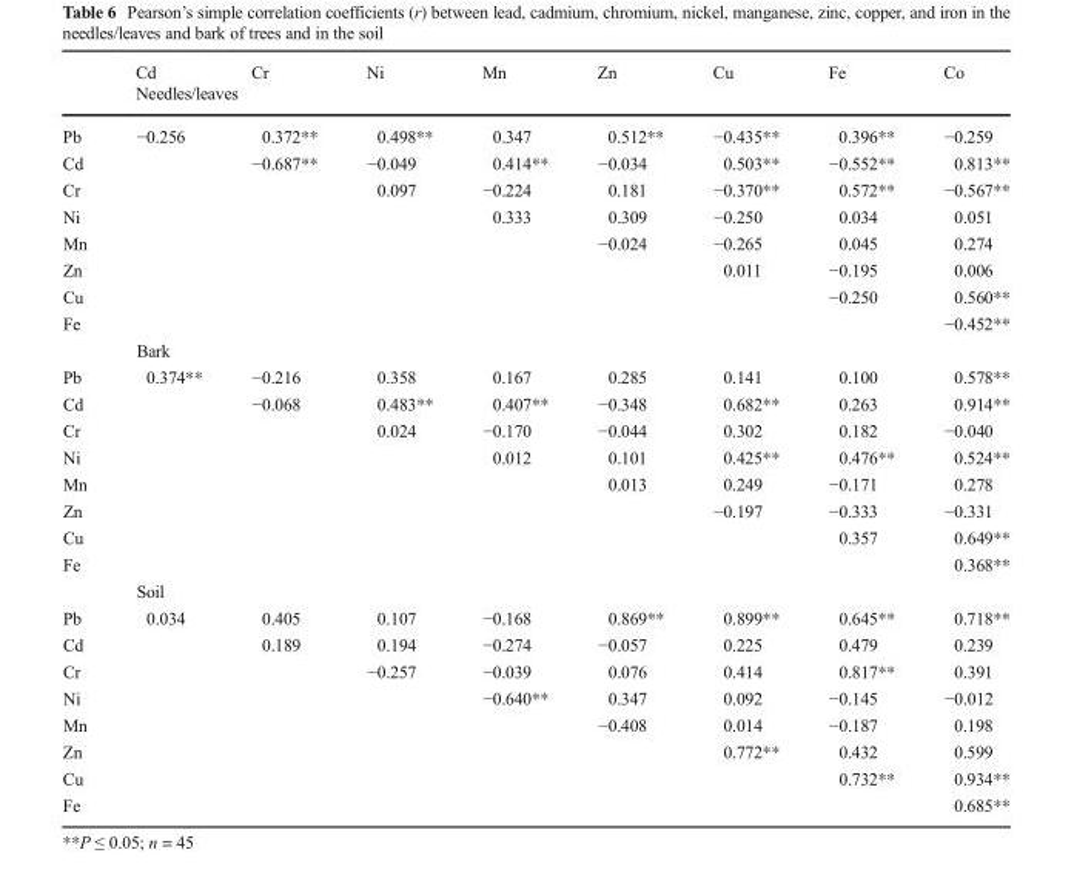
<table><thead><tr><td rowspan="2"></td><td>Cd</td><td>Cr</td><td>Ni</td><td>Mn</td><td>Zn</td><td>Cu</td><td>Fe</td><td>Co</td></tr><tr><td colspan="8">Needles/leaves</td></tr></thead><tbody><tr><td>Pb</td><td>−0.256</td><td>0.372**</td><td>0.498**</td><td>0.347</td><td>0.512**</td><td>−0.435**</td><td>0.396**</td><td>−0.259</td></tr><tr><td>Cd</td><td></td><td>−0.687**</td><td>−0.049</td><td>0.414**</td><td>−0.034</td><td>0.503**</td><td>−0.552**</td><td>0.813**</td></tr><tr><td>Cr</td><td></td><td></td><td>0.097</td><td>−0.224</td><td>0.181</td><td>−0.370**</td><td>0.572**</td><td>−0.567**</td></tr><tr><td>Ni</td><td></td><td></td><td></td><td>0.333</td><td>0.309</td><td>−0.250</td><td>0.034</td><td>0.051</td></tr><tr><td>Mn</td><td></td><td></td><td></td><td></td><td>−0.024</td><td>−0.265</td><td>0.045</td><td>0.274</td></tr><tr><td>Zn</td><td></td><td></td><td></td><td></td><td></td><td>0.011</td><td>−0.195</td><td>0.006</td></tr><tr><td>Cu</td><td></td><td></td><td></td><td></td><td></td><td></td><td>−0.250</td><td>0.560**</td></tr><tr><td rowspan="2">Fe</td><td></td><td></td><td></td><td></td><td></td><td></td><td></td><td>−0.452**</td></tr><tr><td colspan="8">Bark</td></tr><tr><td>Pb</td><td>0.374**</td><td>−0.216</td><td>0.358</td><td>0.167</td><td>0.285</td><td>0.141</td><td>0.100</td><td>0.578**</td></tr><tr><td>Cd</td><td></td><td>−0.068</td><td>0.483**</td><td>0.407**</td><td>−0.348</td><td>0.682**</td><td>0.263</td><td>0.914**</td></tr><tr><td>Cr</td><td></td><td></td><td>0.024</td><td>−0.170</td><td>−0.044</td><td>0.302</td><td>0.182</td><td>−0.040</td></tr><tr><td>Ni</td><td></td><td></td><td></td><td>0.012</td><td>0.101</td><td>0.425**</td><td>0.476**</td><td>0.524**</td></tr><tr><td>Mn</td><td></td><td></td><td></td><td></td><td>0.013</td><td>0.249</td><td>−0.171</td><td>0.278</td></tr><tr><td>Zn</td><td></td><td></td><td></td><td></td><td></td><td>−0.197</td><td>−0.333</td><td>−0.331</td></tr><tr><td>Cu</td><td></td><td></td><td></td><td></td><td></td><td></td><td>0.357</td><td>0.649**</td></tr><tr><td rowspan="2">Fe</td><td></td><td></td><td></td><td></td><td></td><td></td><td></td><td>0.368**</td></tr><tr><td colspan="8">Soil</td></tr><tr><td>Pb</td><td>0.034</td><td>0.405</td><td>0.107</td><td>−0.168</td><td>0.869**</td><td>0.899**</td><td>0.645**</td><td>0.718**</td></tr><tr><td>Cd</td><td></td><td>0.189</td><td>0.194</td><td>−0.274</td><td>−0.057</td><td>0.225</td><td>0.479</td><td>0.239</td></tr><tr><td>Cr</td><td></td><td></td><td>−0.257</td><td>−0.039</td><td>0.076</td><td>0.414</td><td>0.817**</td><td>0.391</td></tr><tr><td>Ni</td><td></td><td></td><td></td><td>−0.640**</td><td>0.347</td><td>0.092</td><td>−0.145</td><td>−0.012</td></tr><tr><td>Mn</td><td></td><td></td><td></td><td></td><td>−0.408</td><td>0.014</td><td>−0.187</td><td>0.198</td></tr><tr><td>Zn</td><td></td><td></td><td></td><td></td><td></td><td>0.772**</td><td>0.432</td><td>0.599</td></tr><tr><td>Cu</td><td></td><td></td><td></td><td></td><td></td><td></td><td>0.732**</td><td>0.934**</td></tr><tr><td>Fe</td><td></td><td></td><td></td><td></td><td></td><td></td><td></td><td>0.685**</td></tr></tbody></table>